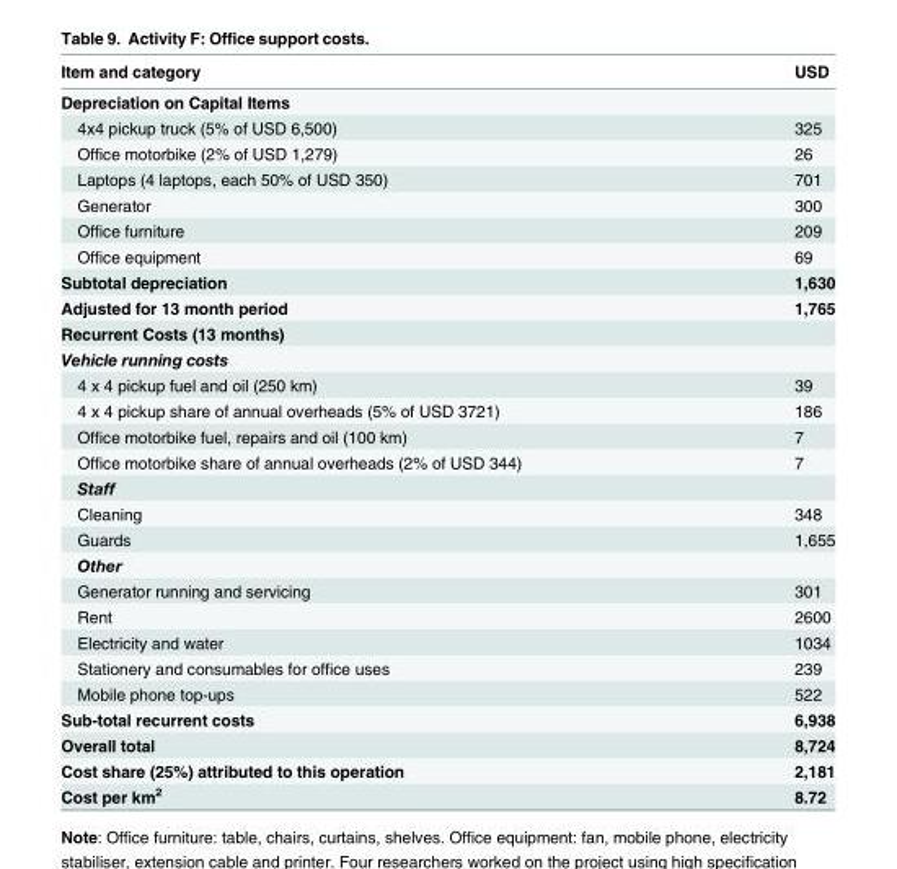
<table><thead><tr><td>Item and category</td><td>USD</td></tr></thead><tbody><tr><td colspan="2">Depreciation on Capital Items</td></tr><tr><td>4x4 pickup truck (5% of USD 6,500)</td><td>325</td></tr><tr><td>Office motorbike (2% of USD 1,279)</td><td>26</td></tr><tr><td>Laptops (4 laptops, each 50% of USD 350)</td><td>701</td></tr><tr><td>Generator</td><td>300</td></tr><tr><td>Office furniture</td><td>209</td></tr><tr><td>Office equipment</td><td>69</td></tr><tr><td>Subtotal depreciation</td><td>1,630</td></tr><tr><td>Adjusted for 13 month period</td><td>1,765</td></tr><tr><td colspan="2">Recurrent Costs (13 months)</td></tr><tr><td colspan="2">Vehicle running costs</td></tr><tr><td>4 x 4 pickup fuel and oil (250 km)</td><td>39</td></tr><tr><td>4 x 4 pickup share of annual overheads (5% of USD 3721)</td><td>186</td></tr><tr><td>Office motorbike fuel, repairs and oil (100 km)</td><td>7</td></tr><tr><td>Office motorbike share of annual overheads (2% of USD 344)</td><td>7</td></tr><tr><td colspan="2">Staff</td></tr><tr><td>Cleaning</td><td>348</td></tr><tr><td>Guards</td><td>1,655</td></tr><tr><td colspan="2">Other</td></tr><tr><td>Generator running and servicing</td><td>301</td></tr><tr><td>Rent</td><td>2600</td></tr><tr><td>Electricity and water</td><td>1034</td></tr><tr><td>Stationery and consumables for office uses</td><td>239</td></tr><tr><td>Mobile phone top-ups</td><td>522</td></tr><tr><td>Sub-total recurrent costs</td><td>6,938</td></tr><tr><td>Overall total</td><td>8,724</td></tr><tr><td>Cost share (25%) attributed to this operation</td><td>2,181</td></tr><tr><td>Cost per km<sup>2</sup></td><td>8.72</td></tr></tbody></table>